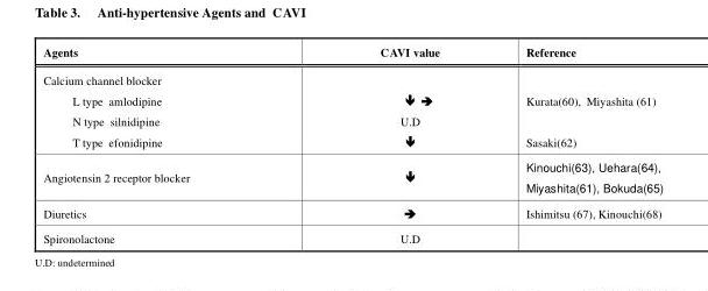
<table><thead><tr><td>Agents</td><td>CAVI value</td><td>Reference</td></tr></thead><tbody><tr><td colspan="3">Calcium channel blocker</td></tr><tr><td>L type amlodipine</td><td>� �</td><td>Kurata(60), Miyashita (61)</td></tr><tr><td>N type silnidipine</td><td>U.D</td><td></td></tr><tr><td>T type efonidipine</td><td>�</td><td>Sasaki(62)</td></tr><tr><td>Angiotensin 2 receptor blocker</td><td>�</td><td>Kinouchi(63), Uehara(64), Miyashita(61), Bokuda(65)</td></tr><tr><td>Diuretics</td><td>�</td><td>Ishimitsu (67), Kinouchi(68)</td></tr><tr><td>Spironolactone</td><td>U.D</td><td></td></tr></tbody></table>